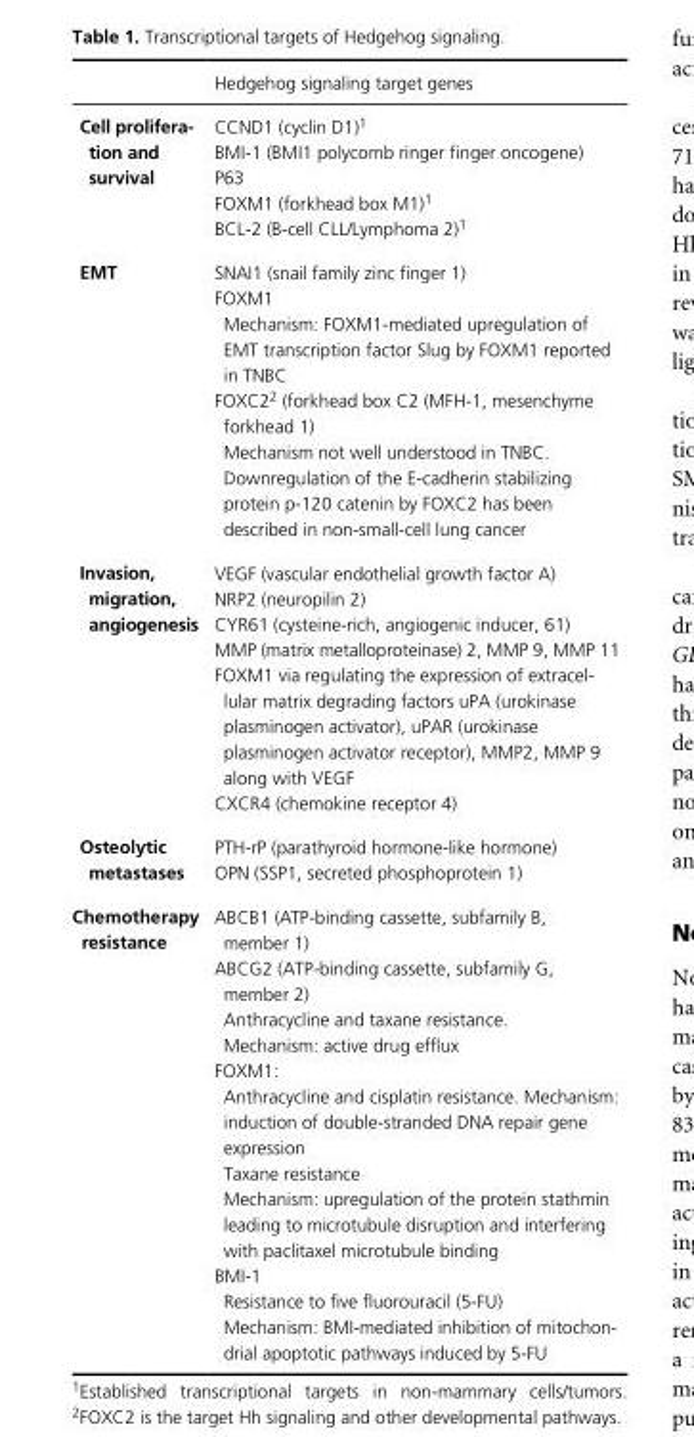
<table><thead><tr><td></td><td>Hedgehog signaling target genes</td></tr></thead><tbody><tr><td rowspan="5">Cell prolifera- tion and survival</td><td>CCND1 (cyclin D1)1</td></tr><tr><td>BMI- 1 (BMI1 polycomb ringer finger oncogene)</td></tr><tr><td>P63</td></tr><tr><td>FOXM1 (forkhead box M1)1</td></tr><tr><td>BCL- 2 (B- cell CLL/Lymphoma 2)1</td></tr><tr><td rowspan="3">EMT</td><td>SNAI1 (snail family zinc finger 1)</td></tr><tr><td>FOXM1 Mechanism: FOXM1- mediated upregulation of EMT transcription factor Slug by FOXM1 reported in TNBC</td></tr><tr><td>FOXC22 (forkhead box C2 (MFH- 1, mesenchyme forkhead 1) Mechanism not well understood in TNBC. Downregulation of the E- cadherin stabilizing protein p- 120 catenin by FOXC2 has been described in non- small- cell lung cancer</td></tr><tr><td rowspan="6">Invasion, migration, angiogenesis</td><td>VEGF (vascular endothelial growth factor A)</td></tr><tr><td>NRP2 (neuropilin 2)</td></tr><tr><td>CYR61 (cysteine- rich, angiogenic inducer, 61)</td></tr><tr><td>MMP (matrix metalloproteinase) 2, MMP 9, MMP 11</td></tr><tr><td>FOXM1 via regulating the expression of extracel- lular matrix degrading factors uPA (urokinase plasminogen activator), uPAR (urokinase plasminogen activator receptor), MMP2, MMP 9 along with VEGF</td></tr><tr><td>CXCR4 (chemokine receptor 4)</td></tr><tr><td rowspan="2">Osteolytic metastases</td><td>PTH- rP (parathyroid hormone- like hormone)</td></tr><tr><td>OPN (SSP1, secreted phosphoprotein 1)</td></tr><tr><td rowspan="4">Chemotherapy resistance</td><td>ABCB1 (ATP- binding cassette, subfamily B, member 1)</td></tr><tr><td>ABCG2 (ATP- binding cassette, subfamily G, member 2) Anthracycline and taxane resistance. Mechanism: active drug efflux</td></tr><tr><td>FOXM1: Anthracycline and cisplatin resistance. Mechanism: induction of double- stranded DNA repair gene expression Taxane resistance Mechanism: upregulation of the protein stathmin leading to microtubule disruption and interfering with paclitaxel microtubule binding</td></tr><tr><td>BMI-1 Resistance to five fluorouracil (5- FU) Mechanism: BMI- mediated inhibition of mitochon- drial apoptotic pathways induced by 5- FU</td></tr></tbody></table>